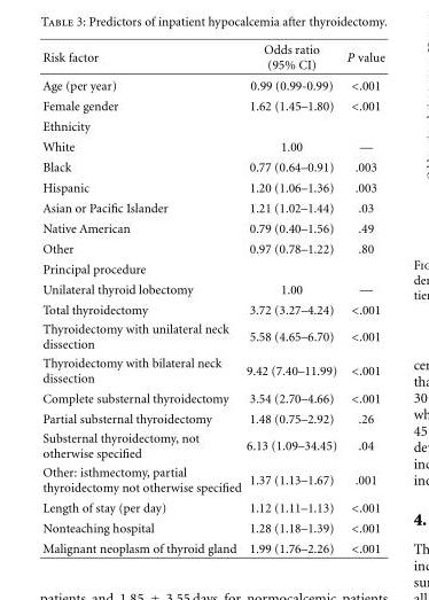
<table><thead><tr><td>Risk factor</td><td>Odds ratio (95% CI)</td><td>P value</td></tr></thead><tbody><tr><td>Age (per year)</td><td>0.99 (0.99-0.99)</td><td>&lt;.001</td></tr><tr><td>Female gender</td><td>1.62 (1.45–1.80)</td><td>&lt;.001</td></tr><tr><td colspan="3">Ethnicity</td></tr><tr><td>White</td><td>1.00</td><td>—</td></tr><tr><td>Black</td><td>0.77 (0.64–0.91)</td><td>.003</td></tr><tr><td>Hispanic</td><td>1.20 (1.06–1.36)</td><td>.003</td></tr><tr><td>Asian or Pacific Islander</td><td>1.21 (1.02–1.44)</td><td>.03</td></tr><tr><td>Native American</td><td>0.79 (0.40–1.56)</td><td>.49</td></tr><tr><td>Other</td><td>0.97 (0.78–1.22)</td><td>.80</td></tr><tr><td colspan="3">Principal procedure</td></tr><tr><td>Unilateral thyroid lobectomy</td><td>1.00</td><td>—</td></tr><tr><td>Total thyroidectomy</td><td>3.72 (3.27–4.24)</td><td>&lt;.001</td></tr><tr><td>Thyroidectomy with unilateral neck dissection</td><td>5.58 (4.65–6.70)</td><td>&lt;.001</td></tr><tr><td>Thyroidectomy with bilateral neck dissection</td><td>9.42 (7.40–11.99)</td><td>&lt;.001</td></tr><tr><td>Complete substernal thyroidectomy</td><td>3.54 (2.70–4.66)</td><td>&lt;.001</td></tr><tr><td>Partial substernal thyroidectomy</td><td>1.48 (0.75–2.92)</td><td>.26</td></tr><tr><td>Substernal thyroidectomy, not otherwise specified</td><td>6.13 (1.09–34.45)</td><td>.04</td></tr><tr><td>Other: isthmectomy, partial thyroidectomy not otherwise specified</td><td>1.37 (1.13–1.67)</td><td>.001</td></tr><tr><td>Length of stay (per day)</td><td>1.12 (1.11–1.13)</td><td>&lt;.001</td></tr><tr><td>Nonteaching hospital</td><td>1.28 (1.18–1.39)</td><td>&lt;.001</td></tr><tr><td>Malignant neoplasm of thyroid gland</td><td>1.99 (1.76–2.26)</td><td>&lt;.001</td></tr></tbody></table>